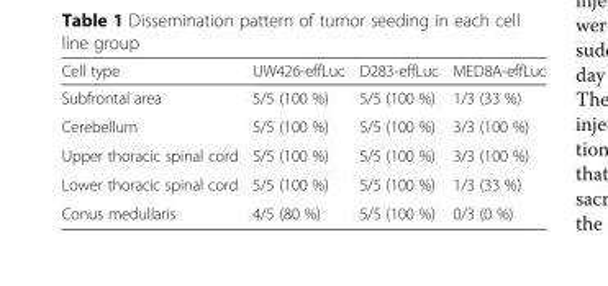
<table><thead><tr><td>Cell type</td><td>UW426-effLuc</td><td>D283-effLuc</td><td>MED8A-effLuc</td></tr></thead><tbody><tr><td>Subfrontal area</td><td>5/5 (100 %)</td><td>5/5 (100 %)</td><td>1/3 (33 %)</td></tr><tr><td>Cerebellum</td><td>5/5 (100 %)</td><td>5/5 (100 %)</td><td>3/3 (100 %)</td></tr><tr><td>Upper thoracic spinal cord</td><td>5/5 (100 %)</td><td>5/5 (100 %)</td><td>3/3 (100 %)</td></tr><tr><td>Lower thoracic spinal cord</td><td>5/5 (100 %)</td><td>5/5 (100 %)</td><td>1/3 (33 %)</td></tr><tr><td>Conus medullaris</td><td>4/5 (80 %)</td><td>5/5 (100 %)</td><td>0/3 (0 %)</td></tr></tbody></table>